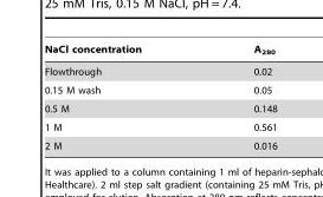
<table><thead><tr><td>NaCl concentration</td><td>A<sub>280</sub></td></tr></thead><tbody><tr><td>Flowthrough</td><td>0.02</td></tr><tr><td>0.15 M wash</td><td>0.05</td></tr><tr><td>0.5 M</td><td>0.148</td></tr><tr><td>1 M</td><td>0.561</td></tr><tr><td>2 M</td><td>0.016</td></tr></tbody></table>